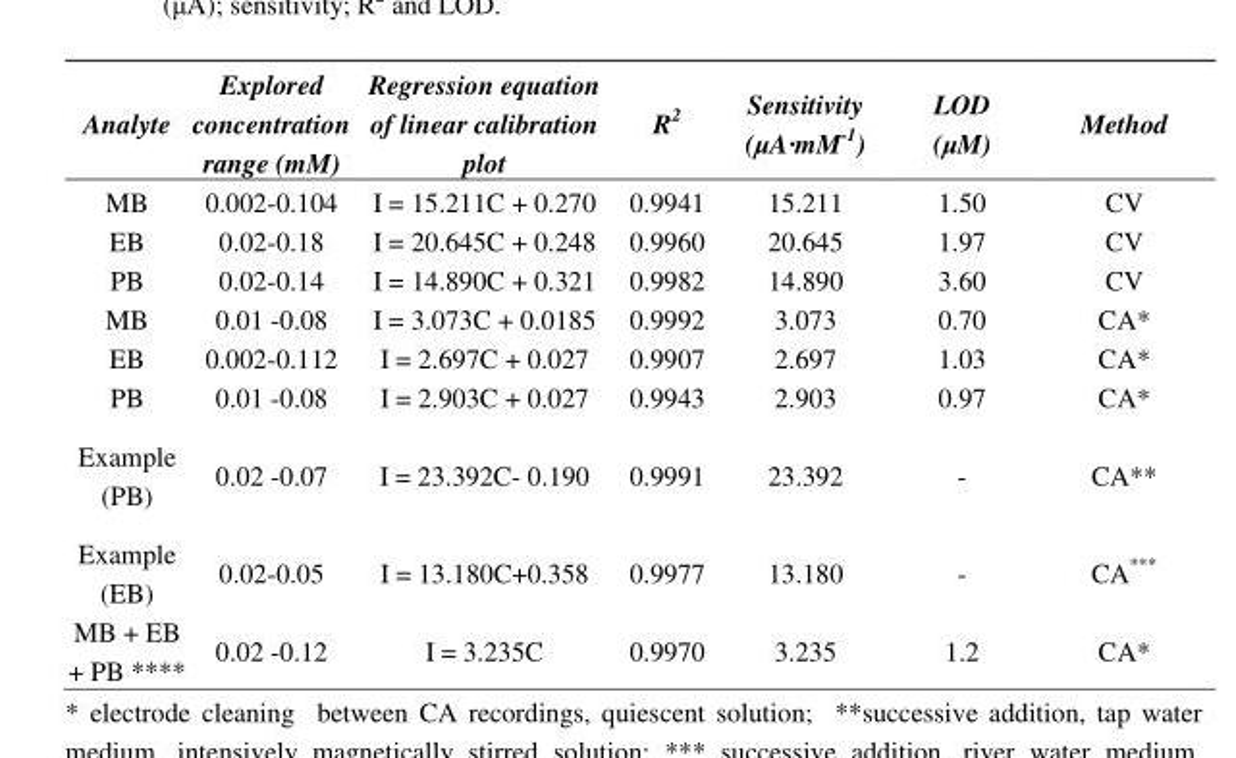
<table><thead><tr><td>Analyte</td><td>Explored concentration range (mM)</td><td>Regression equation of linear calibration plot</td><td>R<sup>2</sup></td><td>Sensitivity (µA·mM<sup>-1</sup>)</td><td>LOD (µM)</td><td>Method</td></tr></thead><tbody><tr><td>MB</td><td>0.002-0.104</td><td>I = 15.211C + 0.270</td><td>0.9941</td><td>15.211</td><td>1.50</td><td>CV</td></tr><tr><td>EB</td><td>0.02-0.18</td><td>I = 20.645C + 0.248</td><td>0.9960</td><td>20.645</td><td>1.97</td><td>CV</td></tr><tr><td>PB</td><td>0.02-0.14</td><td>I = 14.890C + 0.321</td><td>0.9982</td><td>14.890</td><td>3.60</td><td>CV</td></tr><tr><td>MB</td><td>0.01 -0.08</td><td>I = 3.073C + 0.0185</td><td>0.9992</td><td>3.073</td><td>0.70</td><td>CA*</td></tr><tr><td>EB</td><td>0.002-0.112</td><td>I = 2.697C + 0.027</td><td>0.9907</td><td>2.697</td><td>1.03</td><td>CA*</td></tr><tr><td>PB</td><td>0.01 -0.08</td><td>I = 2.903C + 0.027</td><td>0.9943</td><td>2.903</td><td>0.97</td><td>CA*</td></tr><tr><td>Example (PB)</td><td>0.02 -0.07</td><td>I = 23.392C- 0.190</td><td>0.9991</td><td>23.392</td><td>-</td><td>CA**</td></tr><tr><td>Example (EB)</td><td>0.02-0.05</td><td>I = 13.180C+0.358</td><td>0.9977</td><td>13.180</td><td>-</td><td>CA***</td></tr><tr><td>MB + EB + PB ****</td><td>0.02 -0.12</td><td>I = 3.235C</td><td>0.9970</td><td>3.235</td><td>1.2</td><td>CA*</td></tr></tbody></table>